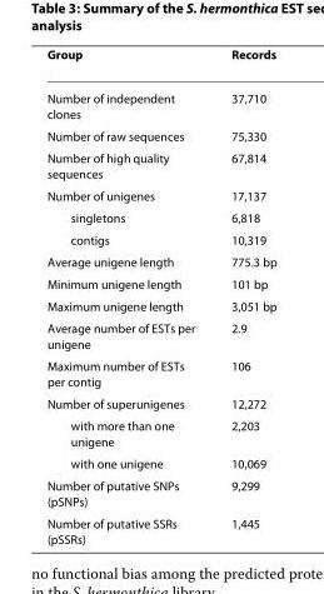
<table><thead><tr><td>Group</td><td>Records</td></tr></thead><tbody><tr><td>Number of independent clones</td><td>37,710</td></tr><tr><td>Number of raw sequences</td><td>75,330</td></tr><tr><td>Number of high quality sequences</td><td>67,814</td></tr><tr><td>Number of unigenes</td><td>17,137</td></tr><tr><td>singletons</td><td>6,818</td></tr><tr><td>contigs</td><td>10,319</td></tr><tr><td>Average unigene length</td><td>775.3 bp</td></tr><tr><td>Minimum unigene length</td><td>101 bp</td></tr><tr><td>Maximum unigene length</td><td>3,051 bp</td></tr><tr><td>Average number of ESTs per unigene</td><td>2.9</td></tr><tr><td>Maximum number of ESTs per contig</td><td>106</td></tr><tr><td>Number of superunigenes</td><td>12,272</td></tr><tr><td>with more than one unigene</td><td>2,203</td></tr><tr><td>with one unigene</td><td>10,069</td></tr><tr><td>Number of putative SNPs (pSNPs)</td><td>9,299</td></tr><tr><td>Number of putative SSRs (pSSRs)</td><td>1,445</td></tr></tbody></table>